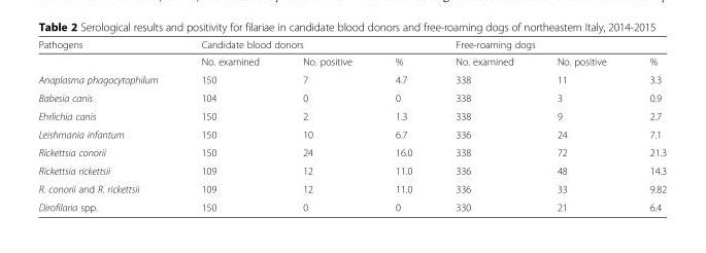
<table><thead><tr><td rowspan="2">Pathogens</td><td colspan="3">Candidate blood donors</td><td colspan="3">Free-roaming dogs</td></tr><tr><td>No. examined</td><td>No. positive</td><td>%</td><td>No. examined</td><td>No. positive</td><td>%</td></tr></thead><tbody><tr><td>Anaplasma phagocytophilum</td><td>150</td><td>7</td><td>4.7</td><td>338</td><td>11</td><td>3.3</td></tr><tr><td>Babesia canis</td><td>104</td><td>0</td><td>0</td><td>338</td><td>3</td><td>0.9</td></tr><tr><td>Ehrlichia canis</td><td>150</td><td>2</td><td>1.3</td><td>338</td><td>9</td><td>2.7</td></tr><tr><td>Leishmania infantum</td><td>150</td><td>10</td><td>6.7</td><td>336</td><td>24</td><td>7.1</td></tr><tr><td>Rickettsia conorii</td><td>150</td><td>24</td><td>16.0</td><td>338</td><td>72</td><td>21.3</td></tr><tr><td>Rickettsia rickettsii</td><td>109</td><td>12</td><td>11.0</td><td>336</td><td>48</td><td>14.3</td></tr><tr><td>R. conorii and R. rickettsii</td><td>109</td><td>12</td><td>11.0</td><td>336</td><td>33</td><td>9.82</td></tr><tr><td>Dirofilaria spp.</td><td>150</td><td>0</td><td>0</td><td>330</td><td>21</td><td>6.4</td></tr></tbody></table>